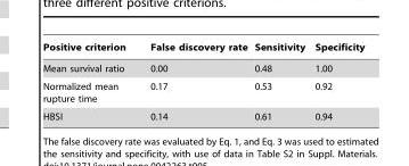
<table><thead><tr><td>Positive criterion</td><td>False discovery rate</td><td>Sensitivity</td><td>Specificity</td></tr></thead><tbody><tr><td>Mean survival ratio</td><td>0.00</td><td>0.48</td><td>1.00</td></tr><tr><td>Normalized mean rupture time</td><td>0.17</td><td>0.53</td><td>0.92</td></tr><tr><td>HBSI</td><td>0.14</td><td>0.61</td><td>0.94</td></tr></tbody></table>